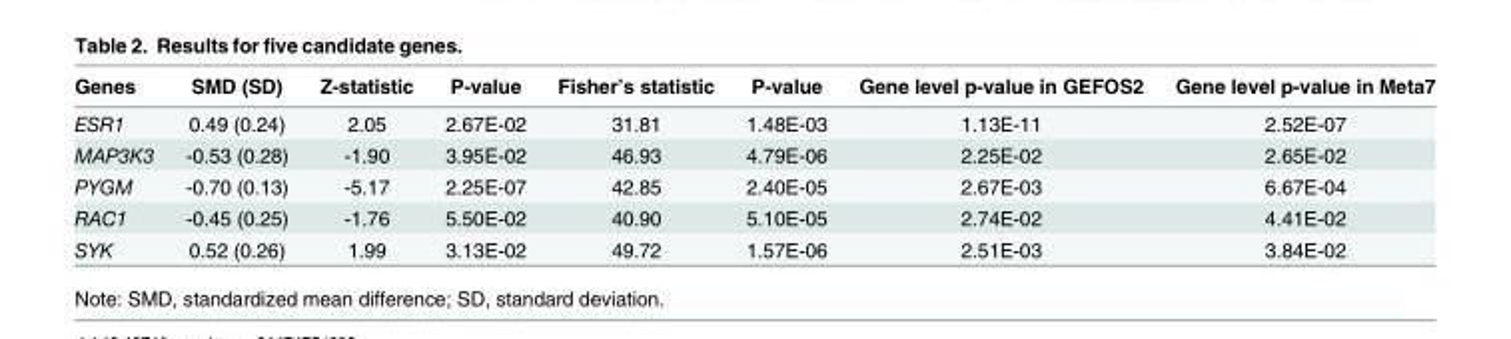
<table><thead><tr><td>Genes</td><td>SMD (SD)</td><td>Z-statistic</td><td>P-value</td><td>Fisher’s statistic</td><td>P-value</td><td>Gene level p-value in GEFOS2</td><td>Gene level p-value in Meta7</td></tr></thead><tbody><tr><td>ESR1</td><td>0.49 (0.24)</td><td>2.05</td><td>2.67E-02</td><td>31.81</td><td>1.48E-03</td><td>1.13E-11</td><td>2.52E-07</td></tr><tr><td>MAP3K3</td><td>-0.53 (0.28)</td><td>-1.90</td><td>3.95E-02</td><td>46.93</td><td>4.79E-06</td><td>2.25E-02</td><td>2.65E-02</td></tr><tr><td>PYGM</td><td>-0.70 (0.13)</td><td>-5.17</td><td>2.25E-07</td><td>42.85</td><td>2.40E-05</td><td>2.67E-03</td><td>6.67E-04</td></tr><tr><td>RAC1</td><td>-0.45 (0.25)</td><td>-1.76</td><td>5.50E-02</td><td>40.90</td><td>5.10E-05</td><td>2.74E-02</td><td>4.41E-02</td></tr><tr><td>SYK</td><td>0.52 (0.26)</td><td>1.99</td><td>3.13E-02</td><td>49.72</td><td>1.57E-06</td><td>2.51E-03</td><td>3.84E-02</td></tr></tbody></table>